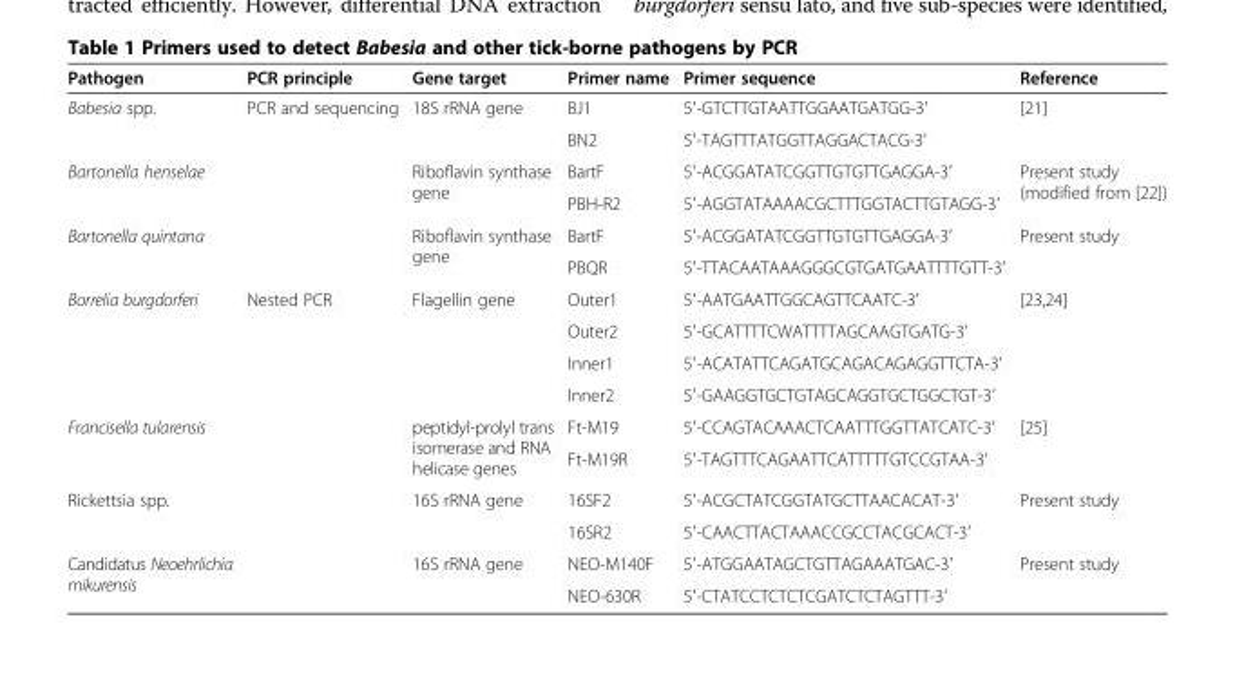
<table><thead><tr><td>Pathogen</td><td>PCR principle</td><td>Gene target</td><td>Primer name</td><td>Primer sequence</td><td>Reference</td></tr></thead><tbody><tr><td rowspan="2">Babesia spp.</td><td rowspan="2">PCR and sequencing</td><td rowspan="2">18S rRNA gene</td><td>BJ1</td><td>5′-GTCTTGTAATTGGAATGATGG-3′</td><td rowspan="2">[21]</td></tr><tr><td>BN2</td><td>5′-TAGTTTATGGTTAGGACTACG-3′</td></tr><tr><td rowspan="2">Bartonella henselae</td><td rowspan="2"></td><td rowspan="2">Riboflavin synthase gene</td><td>BartF</td><td>5′-ACGGATATCGGTTGTGTTGAGGA-3′</td><td rowspan="2">Present study (modified from [22])</td></tr><tr><td>PBH-R2</td><td>5′-AGGTATAAAACGCTTTGGTACTTGTAGG-3′</td></tr><tr><td rowspan="2">Bartonella quintana</td><td rowspan="2"></td><td rowspan="2">Riboflavin synthase gene</td><td>BartF</td><td>5′-ACGGATATCGGTTGTGTTGAGGA-3′</td><td rowspan="2">Present study</td></tr><tr><td>PBQR</td><td>5′-TTACAATAAAGGGCGTGATGAATTTTGTT-3′</td></tr><tr><td rowspan="4">Borrelia burgdorferi</td><td rowspan="4">Nested PCR</td><td rowspan="4">Flagellin gene</td><td>Outer1</td><td>5′-AATGAATTGGCAGTTCAATC-3′</td><td rowspan="4">[23,24]</td></tr><tr><td>Outer2</td><td>5′-GCATTTTCWATTTTAGCAAGTGATG-3′</td></tr><tr><td>Inner1</td><td>5′-ACATATTCAGATGCAGACAGAGGTTCTA-3′</td></tr><tr><td>Inner2</td><td>5′-GAAGGTGCTGTAGCAGGTGCTGGCTGT-3′</td></tr><tr><td rowspan="2">Francisella tularensis</td><td rowspan="2"></td><td rowspan="2">peptidyl-prolyl trans isomerase and RNA helicase genes</td><td>Ft-M19</td><td>5′-CCAGTACAAACTCAATTTGGTTATCATC-3′</td><td rowspan="2">[25]</td></tr><tr><td>Ft-M19R</td><td>5′-TAGTTTCAGAATTCATTTTTGTCCGTAA-3′</td></tr><tr><td rowspan="2">Rickettsia spp.</td><td rowspan="2"></td><td rowspan="2">16S rRNA gene</td><td>16SF2</td><td>5′-ACGCTATCGGTATGCTTAACACAT-3′</td><td rowspan="2">Present study</td></tr><tr><td>16SR2</td><td>5′-CAACTTACTAAACCGCCTACGCACT-3′</td></tr><tr><td rowspan="2">Candidatus Neoehrlichia mikurensis</td><td rowspan="2"></td><td rowspan="2">16S rRNA gene</td><td>NEO-M140F</td><td>5′-ATGGAATAGCTGTTAGAAATGAC-3′</td><td rowspan="2">Present study</td></tr><tr><td>NEO-630R</td><td>5′-CTATCCTCTCTCGATCTCTAGTTT-3′</td></tr></tbody></table>